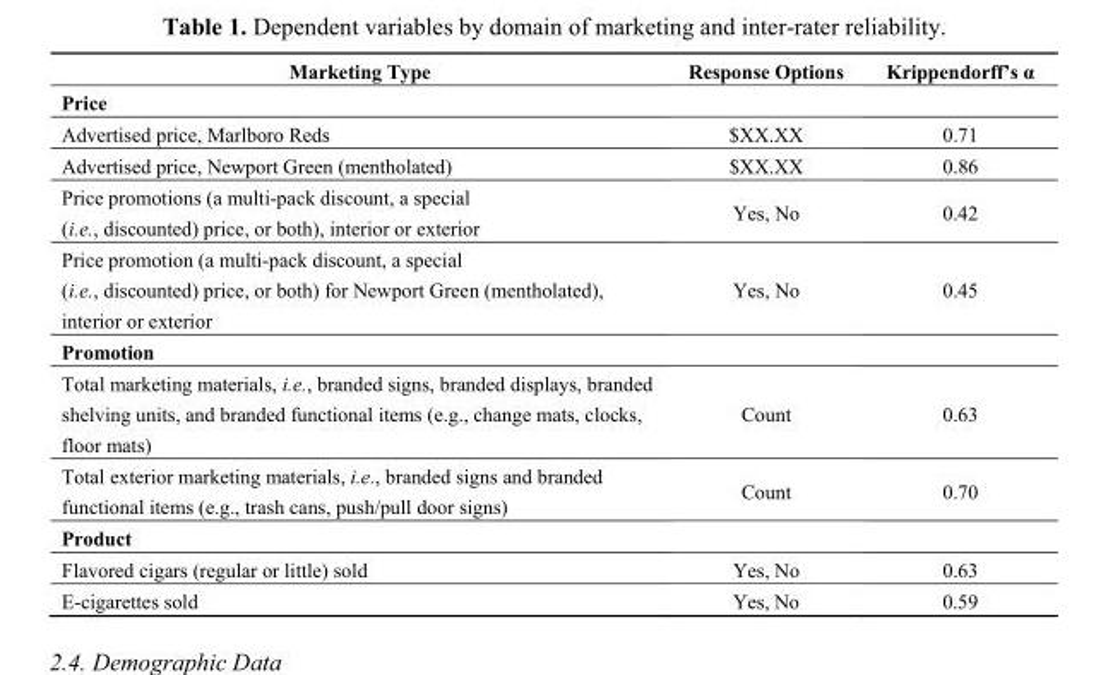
<table><thead><tr><td>Marketing Type</td><td>Response Options</td><td>Krippendorff’s α</td></tr></thead><tbody><tr><td colspan="3">Price</td></tr><tr><td>Advertised price, Marlboro Reds</td><td>$XX.XX</td><td>0.71</td></tr><tr><td>Advertised price, Newport Green (mentholated)</td><td>$XX.XX</td><td>0.86</td></tr><tr><td>Price promotions (a multi-pack discount, a special (i.e., discounted) price, or both), interior or exterior</td><td>Yes, No</td><td>0.42</td></tr><tr><td>Price promotion (a multi-pack discount, a special (i.e., discounted) price, or both) for Newport Green (mentholated), interior or exterior</td><td>Yes, No</td><td>0.45</td></tr><tr><td colspan="3">Promotion</td></tr><tr><td>Total marketing materials, i.e., branded signs, branded displays, branded shelving units, and branded functional items (e.g., change mats, clocks, floor mats)</td><td>Count</td><td>0.63</td></tr><tr><td>Total exterior marketing materials, i.e., branded signs and branded functional items (e.g., trash cans, push/pull door signs)</td><td>Count</td><td>0.70</td></tr><tr><td colspan="3">Product</td></tr><tr><td>Flavored cigars (regular or little) sold</td><td>Yes, No</td><td>0.63</td></tr><tr><td>E-cigarettes sold</td><td>Yes, No</td><td>0.59</td></tr></tbody></table>